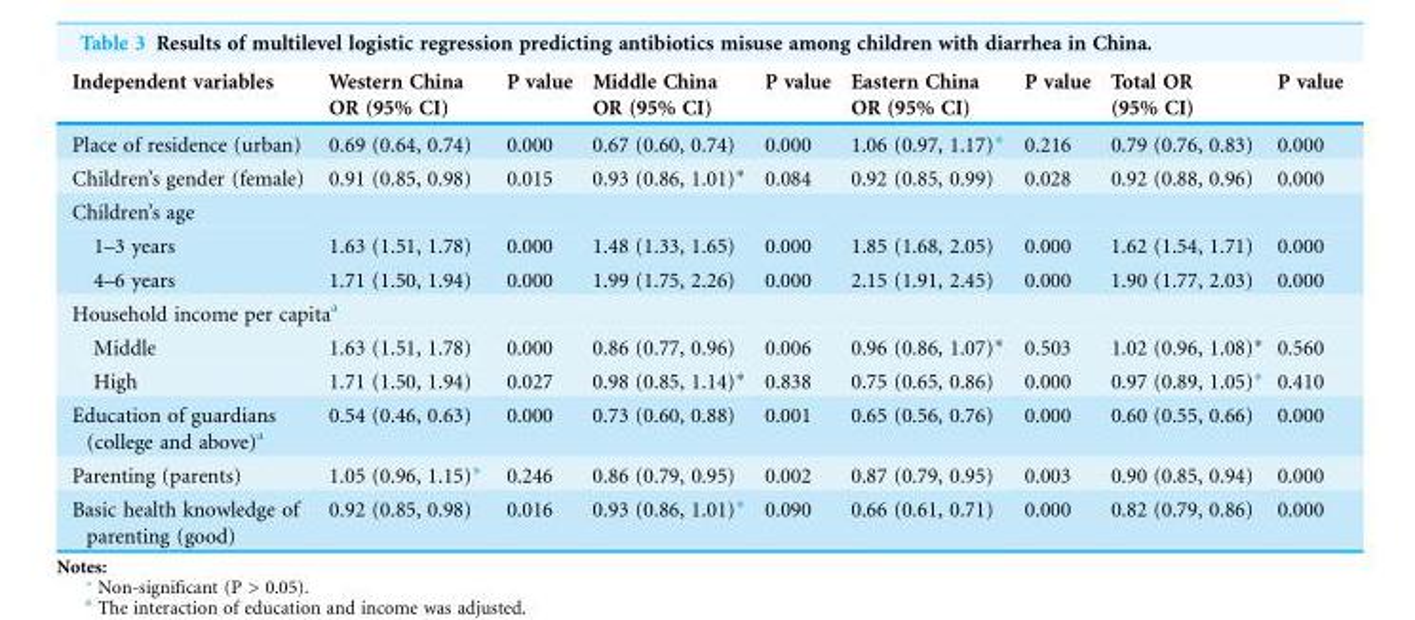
<table><thead><tr><td>Independent variables</td><td>Western China OR (95% CI)</td><td>P value</td><td>Middle China OR (95% CI)</td><td>P value</td><td>Eastern China OR (95% CI)</td><td>P value</td><td>Total OR (95% CI)</td><td>P value</td></tr></thead><tbody><tr><td>Place of residence (urban)</td><td>0.69 (0.64, 0.74)</td><td>0.000</td><td>0.67 (0.60, 0.74)</td><td>0.000</td><td>1.06 (0.97, 1.17)*</td><td>0.216</td><td>0.79 (0.76, 0.83)</td><td>0.000</td></tr><tr><td>Children’s gender (female)</td><td>0.91 (0.85, 0.98)</td><td>0.015</td><td>0.93 (0.86, 1.01)*</td><td>0.084</td><td>0.92 (0.85, 0.99)</td><td>0.028</td><td>0.92 (0.88, 0.96)</td><td>0.000</td></tr><tr><td colspan="9">Children’s age</td></tr><tr><td>1–3 years</td><td>1.63 (1.51, 1.78)</td><td>0.000</td><td>1.48 (1.33, 1.65)</td><td>0.000</td><td>1.85 (1.68, 2.05)</td><td>0.000</td><td>1.62 (1.54, 1.71)</td><td>0.000</td></tr><tr><td>4–6 years</td><td>1.71 (1.50, 1.94)</td><td>0.000</td><td>1.99 (1.75, 2.26)</td><td>0.000</td><td>2.15 (1.91, 2.45)</td><td>0.000</td><td>1.90 (1.77, 2.03)</td><td>0.000</td></tr><tr><td colspan="9">Household income per capita<sup>a</sup></td></tr><tr><td>Middle</td><td>1.63 (1.51, 1.78)</td><td>0.000</td><td>0.86 (0.77, 0.96)</td><td>0.006</td><td>0.96 (0.86, 1.07)*</td><td>0.503</td><td>1.02 (0.96, 1.08)*</td><td>0.560</td></tr><tr><td>High</td><td>1.71 (1.50, 1.94)</td><td>0.027</td><td>0.98 (0.85, 1.14)*</td><td>0.838</td><td>0.75 (0.65, 0.86)</td><td>0.000</td><td>0.97 (0.89, 1.05)*</td><td>0.410</td></tr><tr><td>Education of guardians (college and above)<sup>a</sup></td><td>0.54 (0.46, 0.63)</td><td>0.000</td><td>0.73 (0.60, 0.88)</td><td>0.001</td><td>0.65 (0.56, 0.76)</td><td>0.000</td><td>0.60 (0.55, 0.66)</td><td>0.000</td></tr><tr><td>Parenting (parents)</td><td>1.05 (0.96, 1.15)*</td><td>0.246</td><td>0.86 (0.79, 0.95)</td><td>0.002</td><td>0.87 (0.79, 0.95)</td><td>0.003</td><td>0.90 (0.85, 0.94)</td><td>0.000</td></tr><tr><td>Basic health knowledge of parenting (good)</td><td>0.92 (0.85, 0.98)</td><td>0.016</td><td>0.93 (0.86, 1.01)*</td><td>0.090</td><td>0.66 (0.61, 0.71)</td><td>0.000</td><td>0.82 (0.79, 0.86)</td><td>0.000</td></tr></tbody></table>